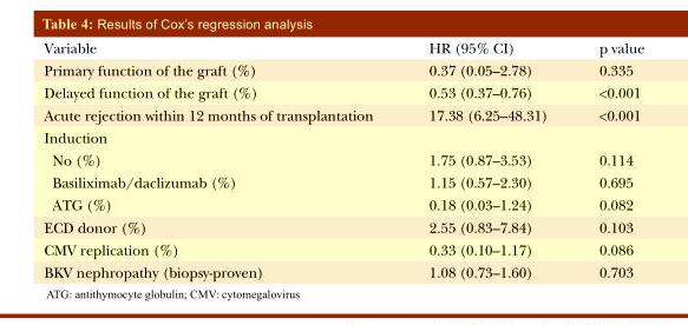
<table><thead><tr><td>Variable</td><td>HR (95% CI)</td><td>p value</td></tr></thead><tbody><tr><td>Primary function of the graft (%)</td><td>0.37 (0.05–2.78)</td><td>0.335</td></tr><tr><td>Delayed function of the graft (%)</td><td>0.53 (0.37–0.76)</td><td>&lt;0.001</td></tr><tr><td>Acute rejection within 12 months of transplantation</td><td>17.38 (6.25–48.31)</td><td>&lt;0.001</td></tr><tr><td colspan="3">Induction</td></tr><tr><td>No (%)</td><td>1.75 (0.87–3.53)</td><td>0.114</td></tr><tr><td>Basiliximab/daclizumab (%)</td><td>1.15 (0.57–2.30)</td><td>0.695</td></tr><tr><td>ATG (%)</td><td>0.18 (0.03–1.24)</td><td>0.082</td></tr><tr><td>ECD donor (%)</td><td>2.55 (0.83–7.84)</td><td>0.103</td></tr><tr><td>CMV replication (%)</td><td>0.33 (0.10–1.17)</td><td>0.086</td></tr><tr><td>BKV nephropathy (biopsy-proven)</td><td>1.08 (0.73–1.60)</td><td>0.703</td></tr></tbody></table>